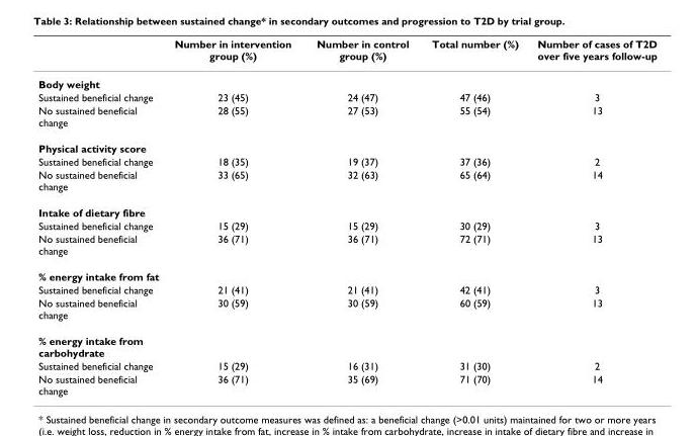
<table><thead><tr><td></td><td>Number in intervention group (%)</td><td>Number in control group (%)</td><td>Total number (%)</td><td>Number of cases of T2D over five years follow-up</td></tr></thead><tbody><tr><td colspan="5">Body weight</td></tr><tr><td>Sustained beneficial change</td><td>23 (45)</td><td>24 (47)</td><td>47 (46)</td><td>3</td></tr><tr><td>No sustained beneficial change</td><td>28 (55)</td><td>27 (53)</td><td>55 (54)</td><td>13</td></tr><tr><td colspan="5">Physical activity score</td></tr><tr><td>Sustained beneficial change</td><td>18 (35)</td><td>19 (37)</td><td>37 (36)</td><td>2</td></tr><tr><td>No sustained beneficial change</td><td>33 (65)</td><td>32 (63)</td><td>65 (64)</td><td>14</td></tr><tr><td colspan="5">Intake of dietary fibre</td></tr><tr><td>Sustained beneficial change</td><td>15 (29)</td><td>15 (29)</td><td>30 (29)</td><td>3</td></tr><tr><td>No sustained beneficial change</td><td>36 (71)</td><td>36 (71)</td><td>72 (71)</td><td>13</td></tr><tr><td colspan="5">% energy intake from fat</td></tr><tr><td>Sustained beneficial change</td><td>21 (41)</td><td>21 (41)</td><td>42 (41)</td><td>3</td></tr><tr><td>No sustained beneficial change</td><td>30 (59)</td><td>30 (59)</td><td>60 (59)</td><td>13</td></tr><tr><td colspan="5">% energy intake from carbohydrate</td></tr><tr><td>Sustained beneficial change</td><td>15 (29)</td><td>16 (31)</td><td>31 (30)</td><td>2</td></tr><tr><td>No sustained beneficial change</td><td>36 (71)</td><td>35 (69)</td><td>71 (70)</td><td>14</td></tr></tbody></table>